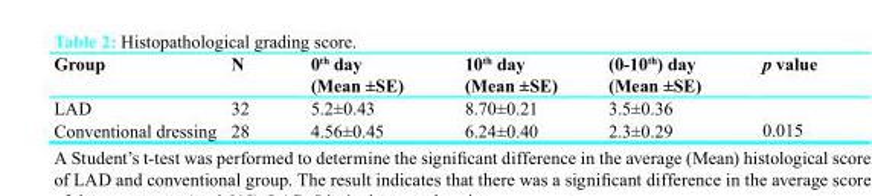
<table><thead><tr><td>Group</td><td>N</td><td>0<sup>th</sup> day (Mean ±SE)</td><td>10<sup>th</sup> day (Mean ±SE)</td><td>(0-10<sup>th</sup>) day (Mean ±SE)</td><td>p value</td></tr></thead><tbody><tr><td>LAD</td><td>32</td><td>5.2±0.43</td><td>8.70±0.21</td><td>3.5±0.36</td><td rowspan="2">0.015</td></tr><tr><td>Conventional dressing</td><td>28</td><td>4.56±0.45</td><td>6.24±0.40</td><td>2.3±0.29</td></tr></tbody></table>